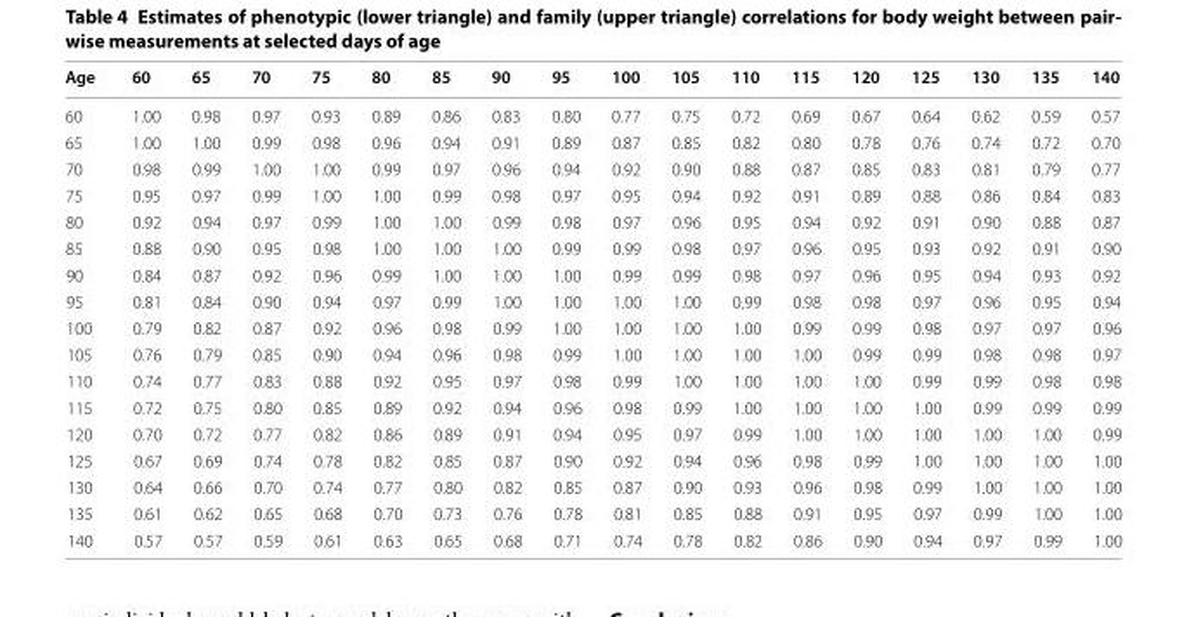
<table><thead><tr><td>Age</td><td>60</td><td>65</td><td>70</td><td>75</td><td>80</td><td>85</td><td>90</td><td>95</td><td>100</td><td>105</td><td>110</td><td>115</td><td>120</td><td>125</td><td>130</td><td>135</td><td>140</td></tr></thead><tbody><tr><td>60</td><td>1.00</td><td>0.98</td><td>0.97</td><td>0.93</td><td>0.89</td><td>0.86</td><td>0.83</td><td>0.80</td><td>0.77</td><td>0.75</td><td>0.72</td><td>0.69</td><td>0.67</td><td>0.64</td><td>0.62</td><td>0.59</td><td>0.57</td></tr><tr><td>65</td><td>1.00</td><td>1.00</td><td>0.99</td><td>0.98</td><td>0.96</td><td>0.94</td><td>0.91</td><td>0.89</td><td>0.87</td><td>0.85</td><td>0.82</td><td>0.80</td><td>0.78</td><td>0.76</td><td>0.74</td><td>0.72</td><td>0.70</td></tr><tr><td>70</td><td>0.98</td><td>0.99</td><td>1.00</td><td>1.00</td><td>0.99</td><td>0.97</td><td>0.96</td><td>0.94</td><td>0.92</td><td>0.90</td><td>0.88</td><td>0.87</td><td>0.85</td><td>0.83</td><td>0.81</td><td>0.79</td><td>0.77</td></tr><tr><td>75</td><td>0.95</td><td>0.97</td><td>0.99</td><td>1.00</td><td>1.00</td><td>0.99</td><td>0.98</td><td>0.97</td><td>0.95</td><td>0.94</td><td>0.92</td><td>0.91</td><td>0.89</td><td>0.88</td><td>0.86</td><td>0.84</td><td>0.83</td></tr><tr><td>80</td><td>0.92</td><td>0.94</td><td>0.97</td><td>0.99</td><td>1.00</td><td>1.00</td><td>0.99</td><td>0.98</td><td>0.97</td><td>0.96</td><td>0.95</td><td>0.94</td><td>0.92</td><td>0.91</td><td>0.90</td><td>0.88</td><td>0.87</td></tr><tr><td>85</td><td>0.88</td><td>0.90</td><td>0.95</td><td>0.98</td><td>1.00</td><td>1.00</td><td>1.00</td><td>0.99</td><td>0.99</td><td>0.98</td><td>0.97</td><td>0.96</td><td>0.95</td><td>0.93</td><td>0.92</td><td>0.91</td><td>0.90</td></tr><tr><td>90</td><td>0.84</td><td>0.87</td><td>0.92</td><td>0.96</td><td>0.99</td><td>1.00</td><td>1.00</td><td>1.00</td><td>0.99</td><td>0.99</td><td>0.98</td><td>0.97</td><td>0.96</td><td>0.95</td><td>0.94</td><td>0.93</td><td>0.92</td></tr><tr><td>95</td><td>0.81</td><td>0.84</td><td>0.90</td><td>0.94</td><td>0.97</td><td>0.99</td><td>1.00</td><td>1.00</td><td>1.00</td><td>1.00</td><td>0.99</td><td>0.98</td><td>0.98</td><td>0.97</td><td>0.96</td><td>0.95</td><td>0.94</td></tr><tr><td>100</td><td>0.79</td><td>0.82</td><td>0.87</td><td>0.92</td><td>0.96</td><td>0.98</td><td>0.99</td><td>1.00</td><td>1.00</td><td>1.00</td><td>1.00</td><td>0.99</td><td>0.99</td><td>0.98</td><td>0.97</td><td>0.97</td><td>0.96</td></tr><tr><td>105</td><td>0.76</td><td>0.79</td><td>0.85</td><td>0.90</td><td>0.94</td><td>0.96</td><td>0.98</td><td>0.99</td><td>1.00</td><td>1.00</td><td>1.00</td><td>1.00</td><td>0.99</td><td>0.99</td><td>0.98</td><td>0.98</td><td>0.97</td></tr><tr><td>110</td><td>0.74</td><td>0.77</td><td>0.83</td><td>0.88</td><td>0.92</td><td>0.95</td><td>0.97</td><td>0.98</td><td>0.99</td><td>1.00</td><td>1.00</td><td>1.00</td><td>1.00</td><td>0.99</td><td>0.99</td><td>0.98</td><td>0.98</td></tr><tr><td>115</td><td>0.72</td><td>0.75</td><td>0.80</td><td>0.85</td><td>0.89</td><td>0.92</td><td>0.94</td><td>0.96</td><td>0.98</td><td>0.99</td><td>1.00</td><td>1.00</td><td>1.00</td><td>1.00</td><td>0.99</td><td>0.99</td><td>0.99</td></tr><tr><td>120</td><td>0.70</td><td>0.72</td><td>0.77</td><td>0.82</td><td>0.86</td><td>0.89</td><td>0.91</td><td>0.94</td><td>0.95</td><td>0.97</td><td>0.99</td><td>1.00</td><td>1.00</td><td>1.00</td><td>1.00</td><td>1.00</td><td>0.99</td></tr><tr><td>125</td><td>0.67</td><td>0.69</td><td>0.74</td><td>0.78</td><td>0.82</td><td>0.85</td><td>0.87</td><td>0.90</td><td>0.92</td><td>0.94</td><td>0.96</td><td>0.98</td><td>0.99</td><td>1.00</td><td>1.00</td><td>1.00</td><td>1.00</td></tr><tr><td>130</td><td>0.64</td><td>0.66</td><td>0.70</td><td>0.74</td><td>0.77</td><td>0.80</td><td>0.82</td><td>0.85</td><td>0.87</td><td>0.90</td><td>0.93</td><td>0.96</td><td>0.98</td><td>0.99</td><td>1.00</td><td>1.00</td><td>1.00</td></tr><tr><td>135</td><td>0.61</td><td>0.62</td><td>0.65</td><td>0.68</td><td>0.70</td><td>0.73</td><td>0.76</td><td>0.78</td><td>0.81</td><td>0.85</td><td>0.88</td><td>0.91</td><td>0.95</td><td>0.97</td><td>0.99</td><td>1.00</td><td>1.00</td></tr><tr><td>140</td><td>0.57</td><td>0.57</td><td>0.59</td><td>0.61</td><td>0.63</td><td>0.65</td><td>0.68</td><td>0.71</td><td>0.74</td><td>0.78</td><td>0.82</td><td>0.86</td><td>0.90</td><td>0.94</td><td>0.97</td><td>0.99</td><td>1.00</td></tr></tbody></table>